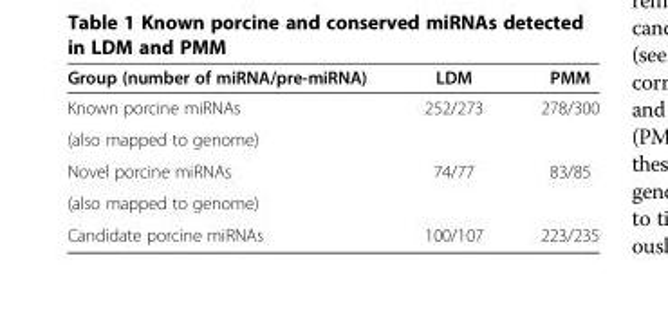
<table><thead><tr><td>Group (number of miRNA/pre-miRNA)</td><td>LDM</td><td>PMM</td></tr></thead><tbody><tr><td>Known porcine miRNAs</td><td rowspan="2">252/273</td><td rowspan="2">278/300</td></tr><tr><td>(also mapped to genome)</td></tr><tr><td>Novel porcine miRNAs</td><td rowspan="2">74/77</td><td rowspan="2">83/85</td></tr><tr><td>(also mapped to genome)</td></tr><tr><td>Candidate porcine miRNAs</td><td>100/107</td><td>223/235</td></tr></tbody></table>